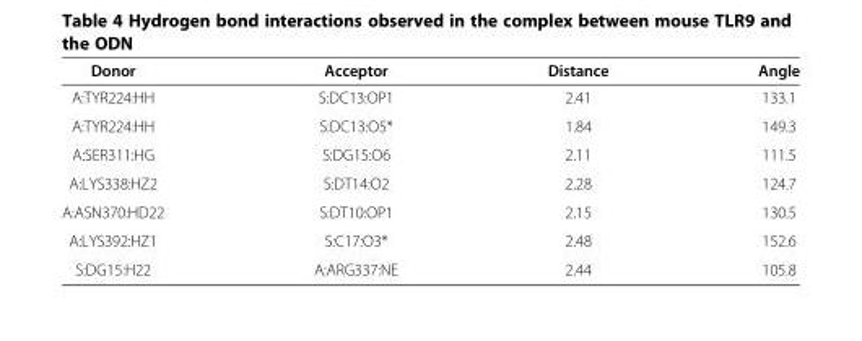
<table><thead><tr><td>Donor</td><td>Acceptor</td><td>Distance</td><td>Angle</td></tr></thead><tbody><tr><td>A:TYR224:HH</td><td>S:DC13:OP1</td><td>2.41</td><td>133.1</td></tr><tr><td>A:TYR224:HH</td><td>S:DC13:O5*</td><td>1.84</td><td>149.3</td></tr><tr><td>A:SER311:HG</td><td>S:DG15:O6</td><td>2.11</td><td>111.5</td></tr><tr><td>A:LYS338:HZ2</td><td>S:DT14:O2</td><td>2.28</td><td>124.7</td></tr><tr><td>A:ASN370:HD22</td><td>S:DT10:OP1</td><td>2.15</td><td>130.5</td></tr><tr><td>A:LYS392:HZ1</td><td>S:C17:O3*</td><td>2.48</td><td>152.6</td></tr><tr><td>S:DG15:H22</td><td>A:ARG337:NE</td><td>2.44</td><td>105.8</td></tr></tbody></table>